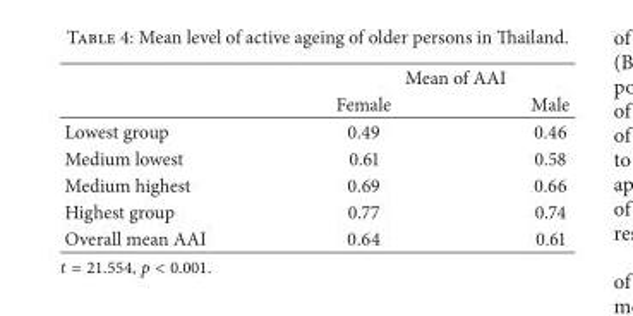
<table><thead><tr><td rowspan="2"></td><td colspan="2">Mean of AAI</td></tr><tr><td>Female</td><td>Male</td></tr></thead><tbody><tr><td>Lowest group</td><td>0.49</td><td>0.46</td></tr><tr><td>Medium lowest</td><td>0.61</td><td>0.58</td></tr><tr><td>Medium highest</td><td>0.69</td><td>0.66</td></tr><tr><td>Highest group</td><td>0.77</td><td>0.74</td></tr><tr><td>Overall mean AAI</td><td>0.64</td><td>0.61</td></tr></tbody></table>